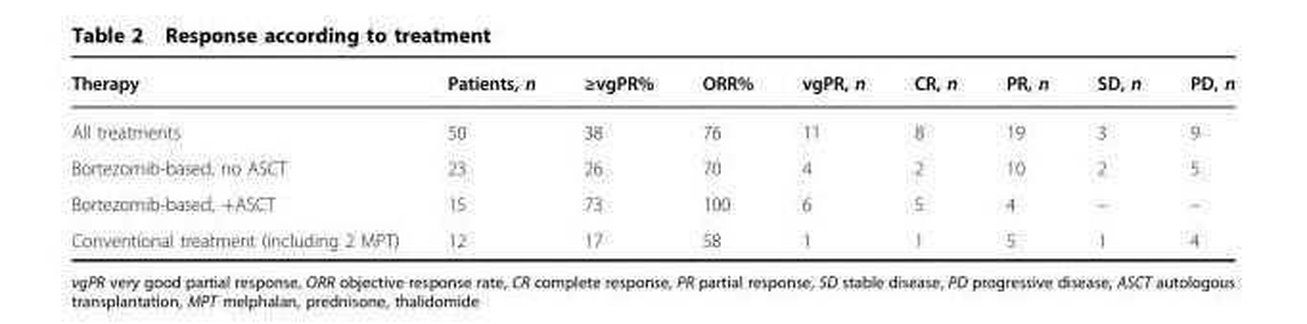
<table><thead><tr><td>Therapy</td><td>Patients, n</td><td>≥vgPR%</td><td>ORR%</td><td>vgPR, n</td><td>CR, n</td><td>PR, n</td><td>SD, n</td><td>PD, n</td></tr></thead><tbody><tr><td>All treatments</td><td>50</td><td>38</td><td>76</td><td>11</td><td>8</td><td>19</td><td>3</td><td>9</td></tr><tr><td>Bortezomib-based, no ASCT</td><td>23</td><td>26</td><td>70</td><td>4</td><td>2</td><td>10</td><td>2</td><td>5</td></tr><tr><td>Bortezomib-based, +ASCT</td><td>15</td><td>73</td><td>100</td><td>6</td><td>5</td><td>4</td><td>–</td><td>–</td></tr><tr><td>Conventional treatment (including 2 MPT)</td><td>12</td><td>17</td><td>58</td><td>1</td><td>1</td><td>5</td><td>1</td><td>4</td></tr></tbody></table>